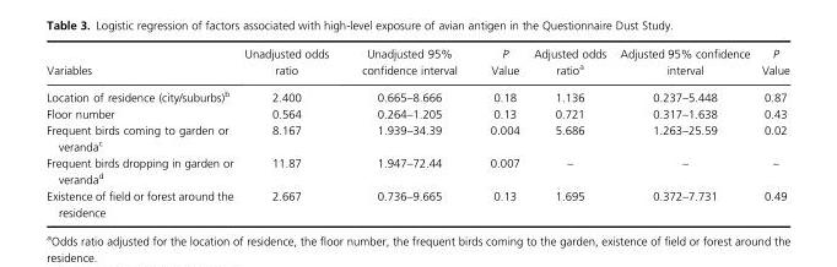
<table><thead><tr><td>Variables</td><td>Unadjusted odds ratio</td><td>Unadjusted 95% confidence interval</td><td>P Value</td><td>Adjusted odds ratio<sup>a</sup></td><td>Adjusted 95% confidence interval</td><td>P Value</td></tr></thead><tbody><tr><td>Location of residence (city/suburbs)<sup>b</sup></td><td>2.400</td><td>0.665–8.666</td><td>0.18</td><td>1.136</td><td>0.237–5.448</td><td>0.87</td></tr><tr><td>Floor number</td><td>0.564</td><td>0.264–1.205</td><td>0.13</td><td>0.721</td><td>0.317–1.638</td><td>0.43</td></tr><tr><td>Frequent birds coming to garden or veranda<sup>c</sup></td><td>8.167</td><td>1.939–34.39</td><td>0.004</td><td>5.686</td><td>1.263–25.59</td><td>0.02</td></tr><tr><td>Frequent birds dropping in garden or veranda<sup>d</sup></td><td>11.87</td><td>1.947–72.44</td><td>0.007</td><td>–</td><td>–</td><td>–</td></tr><tr><td>Existence of field or forest around the residence</td><td>2.667</td><td>0.736–9.665</td><td>0.13</td><td>1.695</td><td>0.372–7.731</td><td>0.49</td></tr></tbody></table>